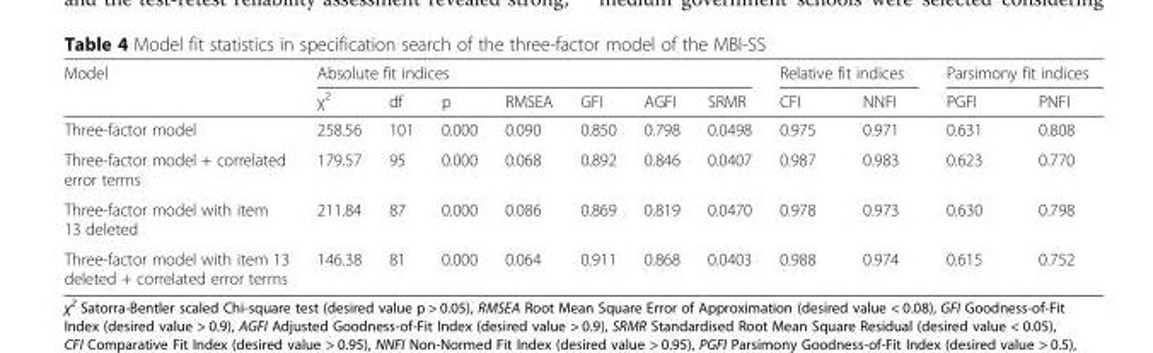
<table><thead><tr><td rowspan="2">Model</td><td colspan="7">Absolute fit indices</td><td colspan="2">Relative fit indices</td><td colspan="2">Parsimony fit indices</td></tr><tr><td>χ<sup>2</sup></td><td>df</td><td>p</td><td>RMSEA</td><td>GFI</td><td>AGFI</td><td>SRMR</td><td>CFI</td><td>NNFI</td><td>PGFI</td><td>PNFI</td></tr></thead><tbody><tr><td>Three-factor model</td><td>258.56</td><td>101</td><td>0.000</td><td>0.090</td><td>0.850</td><td>0.798</td><td>0.0498</td><td>0.975</td><td>0.971</td><td>0.631</td><td>0.808</td></tr><tr><td>Three-factor model + correlated error terms</td><td>179.57</td><td>95</td><td>0.000</td><td>0.068</td><td>0.892</td><td>0.846</td><td>0.0407</td><td>0.987</td><td>0.983</td><td>0.623</td><td>0.770</td></tr><tr><td>Three-factor model with item 13 deleted</td><td>211.84</td><td>87</td><td>0.000</td><td>0.086</td><td>0.869</td><td>0.819</td><td>0.0470</td><td>0.978</td><td>0.973</td><td>0.630</td><td>0.798</td></tr><tr><td>Three-factor model with item 13 deleted + correlated error terms</td><td>146.38</td><td>81</td><td>0.000</td><td>0.064</td><td>0.911</td><td>0.868</td><td>0.0403</td><td>0.988</td><td>0.974</td><td>0.615</td><td>0.752</td></tr></tbody></table>